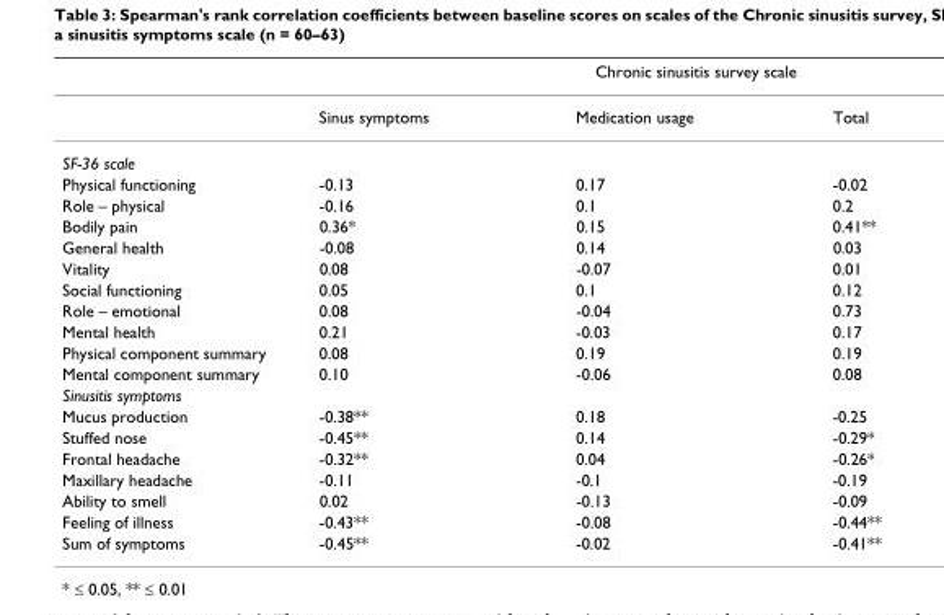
<table><thead><tr><td rowspan="2"></td><td colspan="3">Chronic sinusitis survey scale</td></tr><tr><td>Sinus symptoms</td><td>Medication usage</td><td>Total</td></tr></thead><tbody><tr><td colspan="4">SF-36 scale</td></tr><tr><td>Physical functioning</td><td>-0.13</td><td>0.17</td><td>-0.02</td></tr><tr><td>Role – physical</td><td>-0.16</td><td>0.1</td><td>0.2</td></tr><tr><td>Bodily pain</td><td>0.36*</td><td>0.15</td><td>0.41**</td></tr><tr><td>General health</td><td>-0.08</td><td>0.14</td><td>0.03</td></tr><tr><td>Vitality</td><td>0.08</td><td>-0.07</td><td>0.01</td></tr><tr><td>Social functioning</td><td>0.05</td><td>0.1</td><td>0.12</td></tr><tr><td>Role – emotional</td><td>0.08</td><td>-0.04</td><td>0.73</td></tr><tr><td>Mental health</td><td>0.21</td><td>-0.03</td><td>0.17</td></tr><tr><td>Physical component summary</td><td>0.08</td><td>0.19</td><td>0.19</td></tr><tr><td>Mental component summary</td><td>0.10</td><td>-0.06</td><td>0.08</td></tr><tr><td colspan="4">Sinusitis symptoms</td></tr><tr><td>Mucus production</td><td>-0.38**</td><td>0.18</td><td>-0.25</td></tr><tr><td>Stuffed nose</td><td>-0.45**</td><td>0.14</td><td>-0.29*</td></tr><tr><td>Frontal headache</td><td>-0.32**</td><td>0.04</td><td>-0.26*</td></tr><tr><td>Maxillary headache</td><td>-0.11</td><td>-0.1</td><td>-0.19</td></tr><tr><td>Ability to smell</td><td>0.02</td><td>-0.13</td><td>-0.09</td></tr><tr><td>Feeling of illness</td><td>-0.43**</td><td>-0.08</td><td>-0.44**</td></tr><tr><td>Sum of symptoms</td><td>-0.45**</td><td>-0.02</td><td>-0.41**</td></tr></tbody></table>